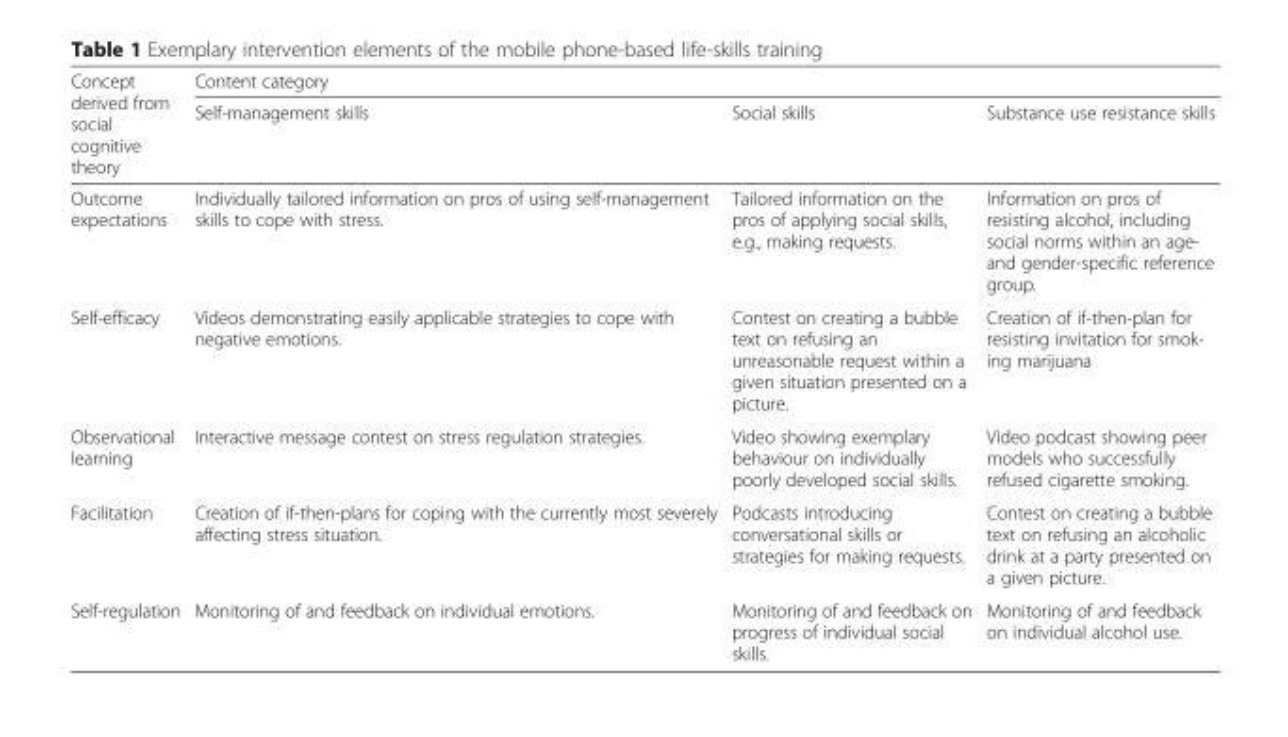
<table><thead><tr><td rowspan="2">Concept derived from social cognitive theory</td><td colspan="3">Content category</td></tr><tr><td>Self-management skills</td><td>Social skills</td><td>Substance use resistance skills</td></tr></thead><tbody><tr><td>Outcome expectations</td><td>Individually tailored information on pros of using self-management skills to cope with stress.</td><td>Tailored information on the pros of applying social skills, e.g., making requests.</td><td>Information on pros of resisting alcohol, including social norms within an age- and gender-specific reference group.</td></tr><tr><td>Self-efficacy</td><td>Videos demonstrating easily applicable strategies to cope with negative emotions.</td><td>Contest on creating a bubble text on refusing an unreasonable request within a given situation presented on a picture.</td><td>Creation of if-then-plan for resisting invitation for smok- ing marijuana</td></tr><tr><td>Observational learning</td><td>Interactive message contest on stress regulation strategies.</td><td>Video showing exemplary behaviour on individually poorly developed social skills.</td><td>Video podcast showing peer models who successfully refused cigarette smoking.</td></tr><tr><td>Facilitation</td><td>Creation of if-then-plans for coping with the currently most severely affecting stress situation.</td><td>Podcasts introducing conversational skills or strategies for making requests.</td><td>Contest on creating a bubble text on refusing an alcoholic drink at a party presented on a given picture.</td></tr><tr><td>Self-regulation</td><td>Monitoring of and feedback on individual emotions.</td><td>Monitoring of and feedback on progress of individual social skills.</td><td>Monitoring of and feedback on individual alcohol use.</td></tr></tbody></table>